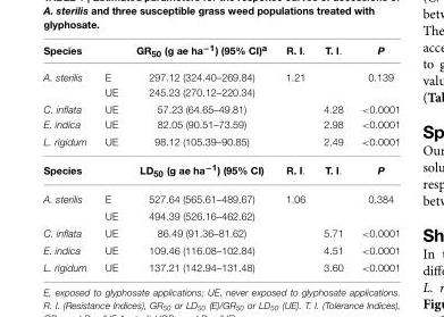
<table><thead><tr><td>Species</td><td></td><td>GR<sub>50</sub> (g ae ha<sup>−1</sup>) (95% CI)<sup>a</sup></td><td>R. I.</td><td>T. I.</td><td>P</td></tr></thead><tbody><tr><td rowspan="2">A. sterilis</td><td>E</td><td>297.12 (324.40–269.84)</td><td>1.21</td><td></td><td>0.139</td></tr><tr><td>UE</td><td>245.23 (270.12–220.34)</td><td></td><td></td><td></td></tr><tr><td>C. inflata</td><td>UE</td><td>57.23 (64.65–49.81)</td><td></td><td>4.28</td><td>&lt;0.0001</td></tr><tr><td>E. indica</td><td>UE</td><td>82.05 (90.51–73.59)</td><td></td><td>2.98</td><td>&lt;0.0001</td></tr><tr><td>L. rigidum</td><td>UE</td><td>98.12 (105.39–90.85)</td><td></td><td>2.49</td><td>&lt;0.0001</td></tr><tr><td>Species</td><td></td><td>LD<sub>50</sub> (g ae ha<sup>−1</sup>) (95% CI)</td><td>R. I.</td><td>T. I.</td><td>P</td></tr><tr><td rowspan="2">A. sterilis</td><td>E</td><td>527.64 (565.61–489.67)</td><td>1.06</td><td></td><td>0.384</td></tr><tr><td>UE</td><td>494.39 (526.16–462.62)</td><td></td><td></td><td></td></tr><tr><td>C. inflata</td><td>UE</td><td>86.49 (91.36–81.62)</td><td></td><td>5.71</td><td>&lt;0.0001</td></tr><tr><td>E. indica</td><td>UE</td><td>109.46 (116.08–102.84)</td><td></td><td>4.51</td><td>&lt;0.0001</td></tr><tr><td>L. rigidum</td><td>UE</td><td>137.21 (142.94–131.48)</td><td></td><td>3.60</td><td>&lt;0.0001</td></tr></tbody></table>